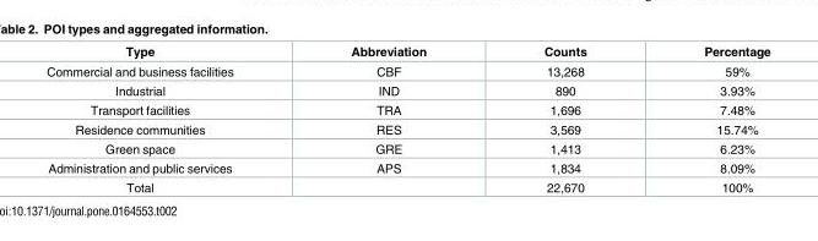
<table><thead><tr><td>Type</td><td>Abbreviation</td><td>Counts</td><td>Percentage</td></tr></thead><tbody><tr><td>Commercial and business facilities</td><td>CBF</td><td>13,268</td><td>59%</td></tr><tr><td>Industrial</td><td>IND</td><td>890</td><td>3.93%</td></tr><tr><td>Transport facilities</td><td>TRA</td><td>1,696</td><td>7.48%</td></tr><tr><td>Residence communities</td><td>RES</td><td>3,569</td><td>15.74%</td></tr><tr><td>Green space</td><td>GRE</td><td>1,413</td><td>6.23%</td></tr><tr><td>Administration and public services</td><td>APS</td><td>1,834</td><td>8.09%</td></tr><tr><td>Total</td><td></td><td>22,670</td><td>100%</td></tr></tbody></table>